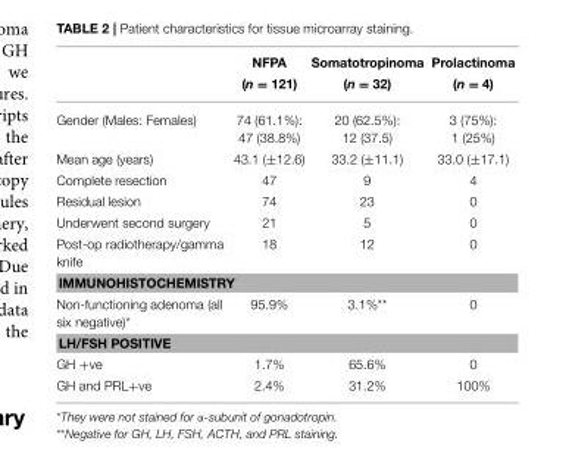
<table><thead><tr><td></td><td>NFPA (n = 121)</td><td>Somatotropinoma (n = 32)</td><td>Prolactinoma (n = 4)</td></tr></thead><tbody><tr><td>Gender (Males: Females)</td><td>74 (61.1%): 47 (38.8%)</td><td>20 (62.5%): 12 (37.5)</td><td>3 (75%): 1 (25%)</td></tr><tr><td>Mean age (years)</td><td>43.1 (±12.6)</td><td>33.2 (±11.1)</td><td>33.0 (±17.1)</td></tr><tr><td>Complete resection</td><td>47</td><td>9</td><td>4</td></tr><tr><td>Residual lesion</td><td>74</td><td>23</td><td>0</td></tr><tr><td>Underwent second surgery</td><td>21</td><td>5</td><td>0</td></tr><tr><td>Post-op radiotherapy/gamma knife</td><td>18</td><td>12</td><td>0</td></tr><tr><td colspan="4">IMMUNOHISTOCHEMISTRY</td></tr><tr><td>Non-functioning adenoma (all six negative)*</td><td>95.9%</td><td>3.1%**</td><td>0</td></tr><tr><td colspan="4">LH/FSH POSITIVE</td></tr><tr><td>GH +ve</td><td>1.7%</td><td>65.6%</td><td>0</td></tr><tr><td>GH and PRL+ve</td><td>2.4%</td><td>31.2%</td><td>100%</td></tr></tbody></table>